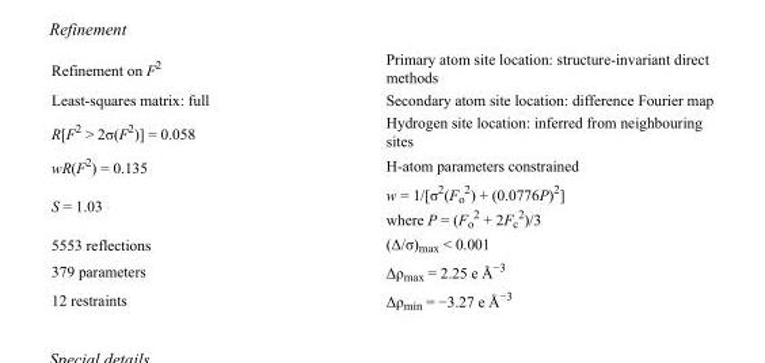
<table><tbody><tr><td>Refinement on F<sup>2</sup></td><td>Primary atom site location: structure-invariant direct methods</td></tr><tr><td>Least-squares matrix: full</td><td>Secondary atom site location: difference Fourier map</td></tr><tr><td>R[F<sup>2</sup> &gt; 2σ(F<sup>2</sup>)] = 0.058</td><td>Hydrogen site location: inferred from neighbouring sites</td></tr><tr><td>wR(F<sup>2</sup>) = 0.135</td><td>H-atom parameters constrained</td></tr><tr><td>S = 1.03</td><td>w = 1/[σ<sup>2</sup>(F<sub>o</sub> <sup>2</sup>) + (0.0776P)<sup>2</sup>] where P = (F<sub>o</sub> <sup>2</sup> + 2F<sub>c</sub> <sup>2</sup>)/3</td></tr><tr><td>5553 reflections</td><td>(Δ/σ)<sub>max</sub> &lt; 0.001</td></tr><tr><td>379 parameters</td><td>Δρ<sub>max</sub> = 2.25 e Å<sup>−3</sup></td></tr><tr><td>12 restraints</td><td>Δρ<sub>min</sub> = −3.27 e Å<sup>−3</sup></td></tr></tbody></table>